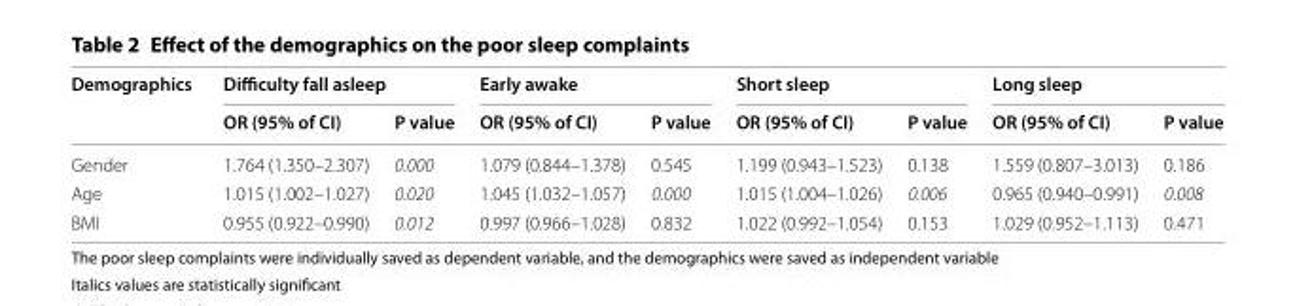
<table><thead><tr><td rowspan="2">Demographics</td><td colspan="2">Difficulty fall asleep</td><td colspan="2">Early awake</td><td colspan="2">Short sleep</td><td colspan="2">Long sleep</td></tr><tr><td>OR (95% of CI)</td><td>P value</td><td>OR (95% of CI)</td><td>P value</td><td>OR (95% of CI)</td><td>P value</td><td>OR (95% of CI)</td><td>P value</td></tr></thead><tbody><tr><td>Gender</td><td>1.764 (1.350–2.307)</td><td>0.000</td><td>1.079 (0.844–1.378)</td><td>0.545</td><td>1.199 (0.943–1.523)</td><td>0.138</td><td>1.559 (0.807–3.013)</td><td>0.186</td></tr><tr><td>Age</td><td>1.015 (1.002–1.027)</td><td>0.020</td><td>1.045 (1.032–1.057)</td><td>0.000</td><td>1.015 (1.004–1.026)</td><td>0.006</td><td>0.965 (0.940–0.991)</td><td>0.008</td></tr><tr><td>BMI</td><td>0.955 (0.922–0.990)</td><td>0.012</td><td>0.997 (0.966–1.028)</td><td>0.832</td><td>1.022 (0.992–1.054)</td><td>0.153</td><td>1.029 (0.952–1.113)</td><td>0.471</td></tr></tbody></table>